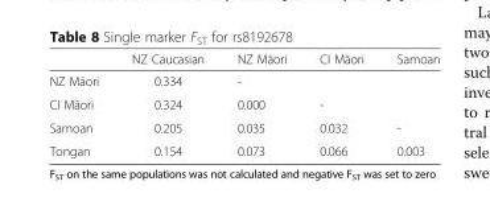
<table><thead><tr><td></td><td>NZ Caucasian</td><td>NZ Māori</td><td>CI Māori</td><td>Samoan</td></tr></thead><tbody><tr><td>NZ Māori</td><td>0.334</td><td>-</td><td></td><td></td></tr><tr><td>CI Māori</td><td>0.324</td><td>0.000</td><td>-</td><td></td></tr><tr><td>Samoan</td><td>0.205</td><td>0.035</td><td>0.032</td><td>-</td></tr><tr><td>Tongan</td><td>0.154</td><td>0.073</td><td>0.066</td><td>0.003</td></tr></tbody></table>